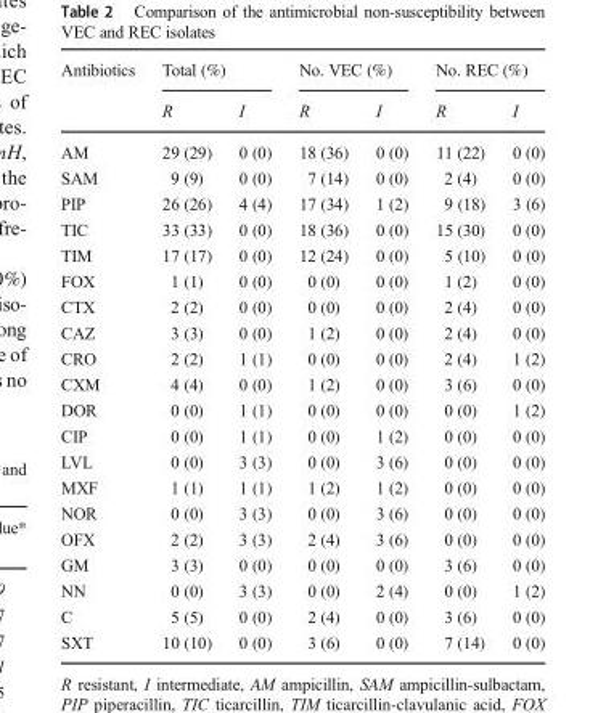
<table><thead><tr><td rowspan="2">Antibiotics</td><td colspan="2">Total (%)</td><td colspan="2">No. VEC (%)</td><td colspan="2">No. REC (%)</td></tr><tr><td>R</td><td>I</td><td>R</td><td>I</td><td>R</td><td>I</td></tr></thead><tbody><tr><td>AM</td><td>29 (29)</td><td>0 (0)</td><td>18 (36)</td><td>0 (0)</td><td>11 (22)</td><td>0 (0)</td></tr><tr><td>SAM</td><td>9 (9)</td><td>0 (0)</td><td>7 (14)</td><td>0 (0)</td><td>2 (4)</td><td>0 (0)</td></tr><tr><td>PIP</td><td>26 (26)</td><td>4 (4)</td><td>17 (34)</td><td>1 (2)</td><td>9 (18)</td><td>3 (6)</td></tr><tr><td>TIC</td><td>33 (33)</td><td>0 (0)</td><td>18 (36)</td><td>0 (0)</td><td>15 (30)</td><td>0 (0)</td></tr><tr><td>TIM</td><td>17 (17)</td><td>0 (0)</td><td>12 (24)</td><td>0 (0)</td><td>5 (10)</td><td>0 (0)</td></tr><tr><td>FOX</td><td>1 (1)</td><td>0 (0)</td><td>0 (0)</td><td>0 (0)</td><td>1 (2)</td><td>0 (0)</td></tr><tr><td>CTX</td><td>2 (2)</td><td>0 (0)</td><td>0 (0)</td><td>0 (0)</td><td>2 (4)</td><td>0 (0)</td></tr><tr><td>CAZ</td><td>3 (3)</td><td>0 (0)</td><td>1 (2)</td><td>0 (0)</td><td>2 (4)</td><td>0 (0)</td></tr><tr><td>CRO</td><td>2 (2)</td><td>1 (1)</td><td>0 (0)</td><td>0 (0)</td><td>2 (4)</td><td>1 (2)</td></tr><tr><td>CXM</td><td>4 (4)</td><td>0 (0)</td><td>1 (2)</td><td>0 (0)</td><td>3 (6)</td><td>0 (0)</td></tr><tr><td>DOR</td><td>0 (0)</td><td>1 (1)</td><td>0 (0)</td><td>0 (0)</td><td>0 (0)</td><td>1 (2)</td></tr><tr><td>CIP</td><td>0 (0)</td><td>1 (1)</td><td>0 (0)</td><td>1 (2)</td><td>0 (0)</td><td>0 (0)</td></tr><tr><td>LVL</td><td>0 (0)</td><td>3 (3)</td><td>0 (0)</td><td>3 (6)</td><td>0 (0)</td><td>0 (0)</td></tr><tr><td>MXF</td><td>1 (1)</td><td>1 (1)</td><td>1 (2)</td><td>1 (2)</td><td>0 (0)</td><td>0 (0)</td></tr><tr><td>NOR</td><td>0 (0)</td><td>3 (3)</td><td>0 (0)</td><td>3 (6)</td><td>0 (0)</td><td>0 (0)</td></tr><tr><td>OFX</td><td>2 (2)</td><td>3 (3)</td><td>2 (4)</td><td>3 (6)</td><td>0 (0)</td><td>0 (0)</td></tr><tr><td>GM</td><td>3 (3)</td><td>0 (0)</td><td>0 (0)</td><td>0 (0)</td><td>3 (6)</td><td>0 (0)</td></tr><tr><td>NN</td><td>0 (0)</td><td>3 (3)</td><td>0 (0)</td><td>2 (4)</td><td>0 (0)</td><td>1 (2)</td></tr><tr><td>C</td><td>5 (5)</td><td>0 (0)</td><td>2 (4)</td><td>0 (0)</td><td>3 (6)</td><td>0 (0)</td></tr><tr><td>SXT</td><td>10 (10)</td><td>0 (0)</td><td>3 (6)</td><td>0 (0)</td><td>7 (14)</td><td>0 (0)</td></tr></tbody></table>